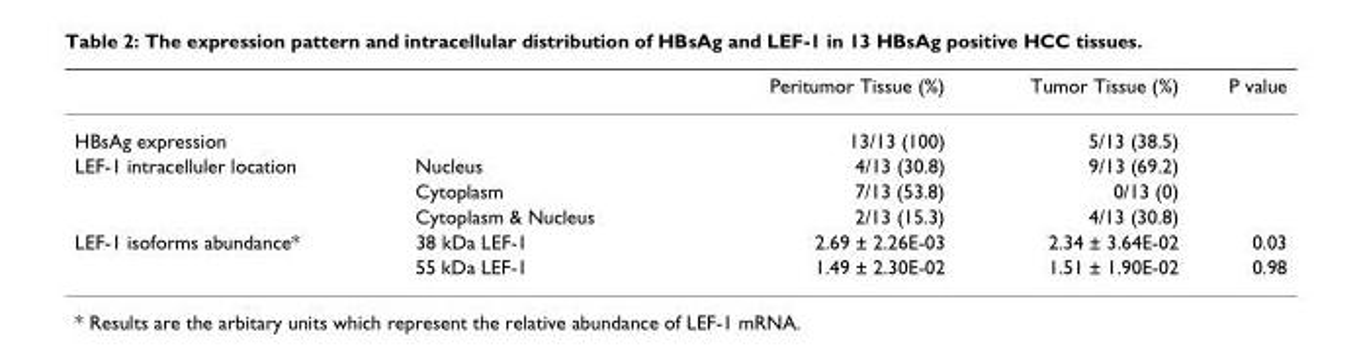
<table><thead><tr><td></td><td></td><td>Peritumor Tissue (%)</td><td>Tumor Tissue (%)</td><td>P value</td></tr></thead><tbody><tr><td>HBsAg expression</td><td></td><td>13/13 (100)</td><td>5/13 (38.5)</td><td></td></tr><tr><td rowspan="3">LEF-1 intracelluler location</td><td>Nucleus</td><td>4/13 (30.8)</td><td>9/13 (69.2)</td><td></td></tr><tr><td>Cytoplasm</td><td>7/13 (53.8)</td><td>0/13 (0)</td><td></td></tr><tr><td>Cytoplasm &amp; Nucleus</td><td>2/13 (15.3)</td><td>4/13 (30.8)</td><td></td></tr><tr><td rowspan="2">LEF-1 isoforms abundance*</td><td>38 kDa LEF-1</td><td>2.69 ± 2.26E-03</td><td>2.34 ± 3.64E-02</td><td>0.03</td></tr><tr><td>55 kDa LEF-1</td><td>1.49 ± 2.30E-02</td><td>1.51 ± 1.90E-02</td><td>0.98</td></tr></tbody></table>